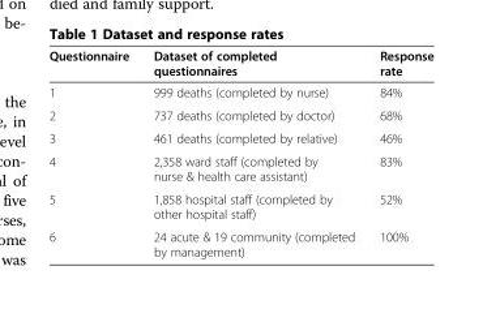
<table><thead><tr><td>Questionnaire</td><td>Dataset of completed questionnaires</td><td>Response rate</td></tr></thead><tbody><tr><td>1</td><td>999 deaths (completed by nurse)</td><td>84%</td></tr><tr><td>2</td><td>737 deaths (completed by doctor)</td><td>68%</td></tr><tr><td>3</td><td>461 deaths (completed by relative)</td><td>46%</td></tr><tr><td>4</td><td>2,358 ward staff (completed by nurse &amp; health care assistant)</td><td>83%</td></tr><tr><td>5</td><td>1,858 hospital staff (completed by other hospital staff)</td><td>52%</td></tr><tr><td>6</td><td>24 acute &amp; 19 community (completed by management)</td><td>100%</td></tr></tbody></table>